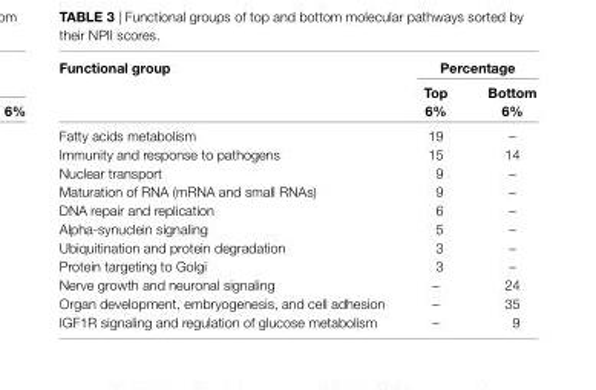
<table><thead><tr><td rowspan="2">Functional group</td><td colspan="2">Percentage</td></tr><tr><td>Top 6%</td><td>Bottom 6%</td></tr></thead><tbody><tr><td>Fatty acids metabolism</td><td>19</td><td>–</td></tr><tr><td>Immunity and response to pathogens</td><td>15</td><td>14</td></tr><tr><td>Nuclear transport</td><td>9</td><td>–</td></tr><tr><td>Maturation of RNA (mRNA and small RNAs)</td><td>9</td><td>–</td></tr><tr><td>DNA repair and replication</td><td>6</td><td>–</td></tr><tr><td>Alpha-synuclein signaling</td><td>5</td><td>–</td></tr><tr><td>Ubiquitination and protein degradation</td><td>3</td><td>–</td></tr><tr><td>Protein targeting to Golgi</td><td>3</td><td>–</td></tr><tr><td>Nerve growth and neuronal signaling</td><td>–</td><td>24</td></tr><tr><td>Organ development, embryogenesis, and cell adhesion</td><td>–</td><td>35</td></tr><tr><td>IGF1R signaling and regulation of glucose metabolism</td><td>–</td><td>9</td></tr></tbody></table>